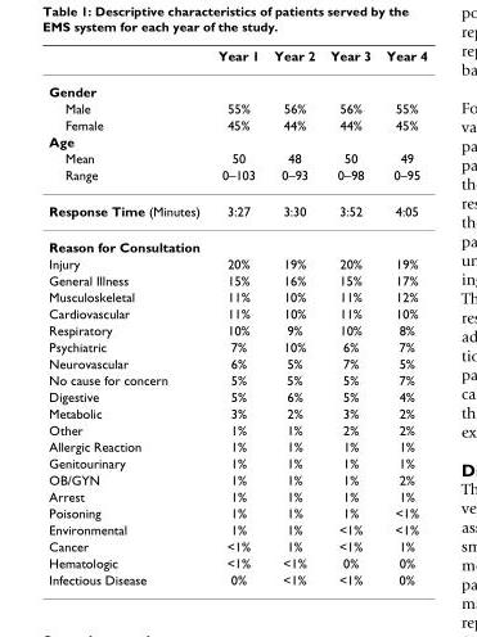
<table><thead><tr><td></td><td>Year 1</td><td>Year 2</td><td>Year 3</td><td>Year 4</td></tr></thead><tbody><tr><td colspan="5">Gender</td></tr><tr><td>Male</td><td>55%</td><td>56%</td><td>56%</td><td>55%</td></tr><tr><td>Female</td><td>45%</td><td>44%</td><td>44%</td><td>45%</td></tr><tr><td colspan="5">Age</td></tr><tr><td>Mean</td><td>50</td><td>48</td><td>50</td><td>49</td></tr><tr><td>Range</td><td>0–103</td><td>0–93</td><td>0–98</td><td>0–95</td></tr><tr><td>Response Time (Minutes)</td><td>3:27</td><td>3:30</td><td>3:52</td><td>4:05</td></tr><tr><td colspan="5">Reason for Consultation</td></tr><tr><td>Injury</td><td>20%</td><td>19%</td><td>20%</td><td>19%</td></tr><tr><td>General Illness</td><td>15%</td><td>16%</td><td>15%</td><td>17%</td></tr><tr><td>Musculoskeletal</td><td>11%</td><td>10%</td><td>11%</td><td>12%</td></tr><tr><td>Cardiovascular</td><td>11%</td><td>10%</td><td>11%</td><td>10%</td></tr><tr><td>Respiratory</td><td>10%</td><td>9%</td><td>10%</td><td>8%</td></tr><tr><td>Psychiatric</td><td>7%</td><td>10%</td><td>6%</td><td>7%</td></tr><tr><td>Neurovascular</td><td>6%</td><td>5%</td><td>7%</td><td>5%</td></tr><tr><td>No cause for concern</td><td>5%</td><td>5%</td><td>5%</td><td>7%</td></tr><tr><td>Digestive</td><td>5%</td><td>6%</td><td>5%</td><td>4%</td></tr><tr><td>Metabolic</td><td>3%</td><td>2%</td><td>3%</td><td>2%</td></tr><tr><td>Other</td><td>1%</td><td>1%</td><td>2%</td><td>2%</td></tr><tr><td>Allergic Reaction</td><td>1%</td><td>1%</td><td>1%</td><td>1%</td></tr><tr><td>Genitourinary</td><td>1%</td><td>1%</td><td>1%</td><td>1%</td></tr><tr><td>OB/GYN</td><td>1%</td><td>1%</td><td>1%</td><td>2%</td></tr><tr><td>Arrest</td><td>1%</td><td>1%</td><td>1%</td><td>1%</td></tr><tr><td>Poisoning</td><td>1%</td><td>1%</td><td>1%</td><td>&lt;1%</td></tr><tr><td>Environmental</td><td>1%</td><td>1%</td><td>&lt;1%</td><td>&lt;1%</td></tr><tr><td>Cancer</td><td>&lt;1%</td><td>1%</td><td>&lt;1%</td><td>1%</td></tr><tr><td>Hematologic</td><td>&lt;1%</td><td>&lt;1%</td><td>0%</td><td>0%</td></tr><tr><td>Infectious Disease</td><td>0%</td><td>&lt;1%</td><td>&lt;1%</td><td>0%</td></tr></tbody></table>